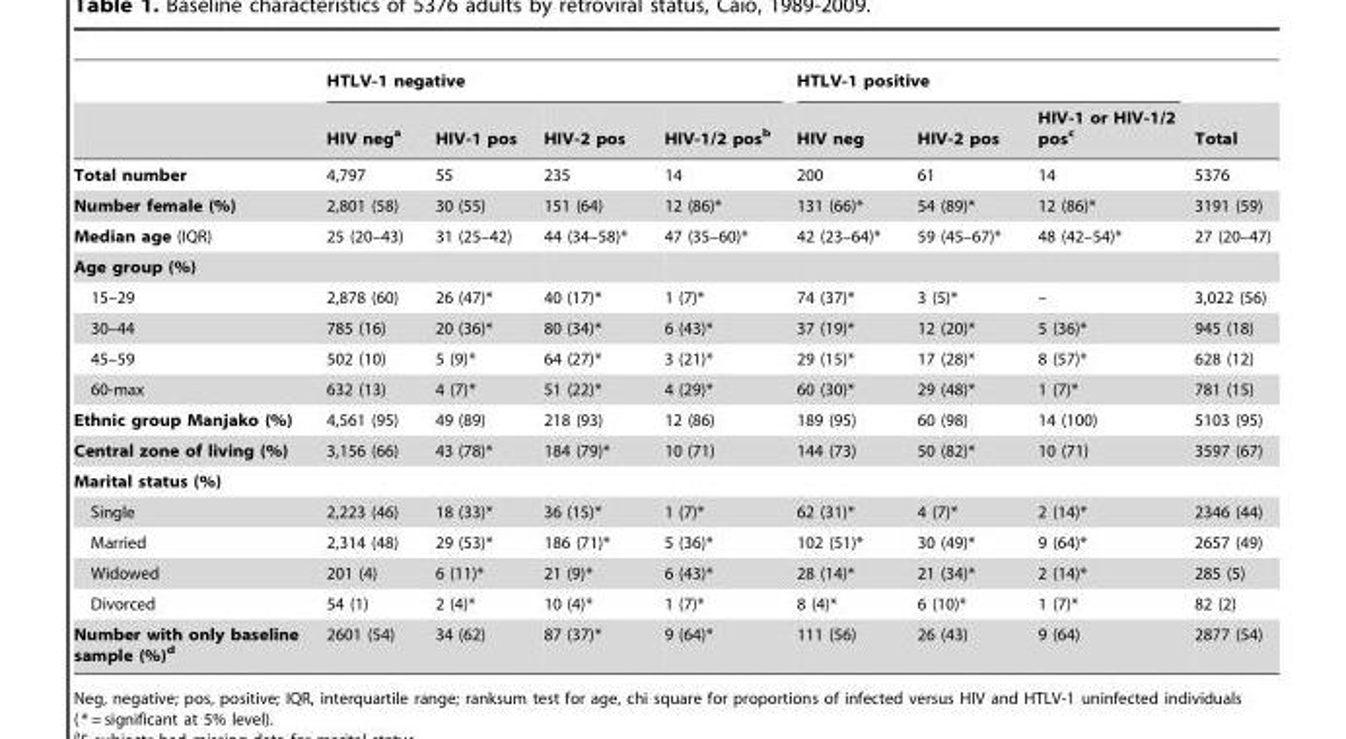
<table><thead><tr><td rowspan="2"></td><td colspan="4">HTLV-1 negative</td><td colspan="3">HTLV-1 positive</td><td rowspan="2">Total</td></tr><tr><td>HIV neg<sup>a</sup></td><td>HIV-1 pos</td><td>HIV-2 pos</td><td>HIV-1/2 pos<sup>b</sup></td><td>HIV neg</td><td>HIV-2 pos</td><td>HIV-1 or HIV-1/2 pos<sup>c</sup></td></tr></thead><tbody><tr><td>Total number</td><td>4,797</td><td>55</td><td>235</td><td>14</td><td>200</td><td>61</td><td>14</td><td>5376</td></tr><tr><td>Number female (%)</td><td>2,801 (58)</td><td>30 (55)</td><td>151 (64)</td><td>12 (86)*</td><td>131 (66)*</td><td>54 (89)*</td><td>12 (86)*</td><td>3191 (59)</td></tr><tr><td>Median age (IQR)</td><td>25 (20–43)</td><td>31 (25–42)</td><td>44 (34–58)*</td><td>47 (35–60)*</td><td>42 (23–64)*</td><td>59 (45–67)*</td><td>48 (42–54)*</td><td>27 (20–47)</td></tr><tr><td colspan="9">Age group (%)</td></tr><tr><td>15–29</td><td>2,878 (60)</td><td>26 (47)*</td><td>40 (17)*</td><td>1 (7)*</td><td>74 (37)*</td><td>3 (5)*</td><td>–</td><td>3,022 (56)</td></tr><tr><td>30–44</td><td>785 (16)</td><td>20 (36)*</td><td>80 (34)*</td><td>6 (43)*</td><td>37 (19)*</td><td>12 (20)*</td><td>5 (36)*</td><td>945 (18)</td></tr><tr><td>45–59</td><td>502 (10)</td><td>5 (9)*</td><td>64 (27)*</td><td>3 (21)*</td><td>29 (15)*</td><td>17 (28)*</td><td>8 (57)*</td><td>628 (12)</td></tr><tr><td>60-max</td><td>632 (13)</td><td>4 (7)*</td><td>51 (22)*</td><td>4 (29)*</td><td>60 (30)*</td><td>29 (48)*</td><td>1 (7)*</td><td>781 (15)</td></tr><tr><td>Ethnic group Manjako (%)</td><td>4,561 (95)</td><td>49 (89)</td><td>218 (93)</td><td>12 (86)</td><td>189 (95)</td><td>60 (98)</td><td>14 (100)</td><td>5103 (95)</td></tr><tr><td>Central zone of living (%)</td><td>3,156 (66)</td><td>43 (78)*</td><td>184 (79)*</td><td>10 (71)</td><td>144 (73)</td><td>50 (82)*</td><td>10 (71)</td><td>3597 (67)</td></tr><tr><td colspan="9">Marital status (%)</td></tr><tr><td>Single</td><td>2,223 (46)</td><td>18 (33)*</td><td>36 (15)*</td><td>1 (7)*</td><td>62 (31)*</td><td>4 (7)*</td><td>2 (14)*</td><td>2346 (44)</td></tr><tr><td>Married</td><td>2,314 (48)</td><td>29 (53)*</td><td>186 (71)*</td><td>5 (36)*</td><td>102 (51)*</td><td>30 (49)*</td><td>9 (64)*</td><td>2657 (49)</td></tr><tr><td>Widowed</td><td>201 (4)</td><td>6 (11)*</td><td>21 (9)*</td><td>6 (43)*</td><td>28 (14)*</td><td>21 (34)*</td><td>2 (14)*</td><td>285 (5)</td></tr><tr><td>Divorced</td><td>54 (1)</td><td>2 (4)*</td><td>10 (4)*</td><td>1 (7)*</td><td>8 (4)*</td><td>6 (10)*</td><td>1 (7)*</td><td>82 (2)</td></tr><tr><td>Number with only baseline sample (%)d</td><td>2601 (54)</td><td>34 (62)</td><td>87 (37)*</td><td>9 (64)*</td><td>111 (56)</td><td>26 (43)</td><td>9 (64)</td><td>2877 (54)</td></tr></tbody></table>